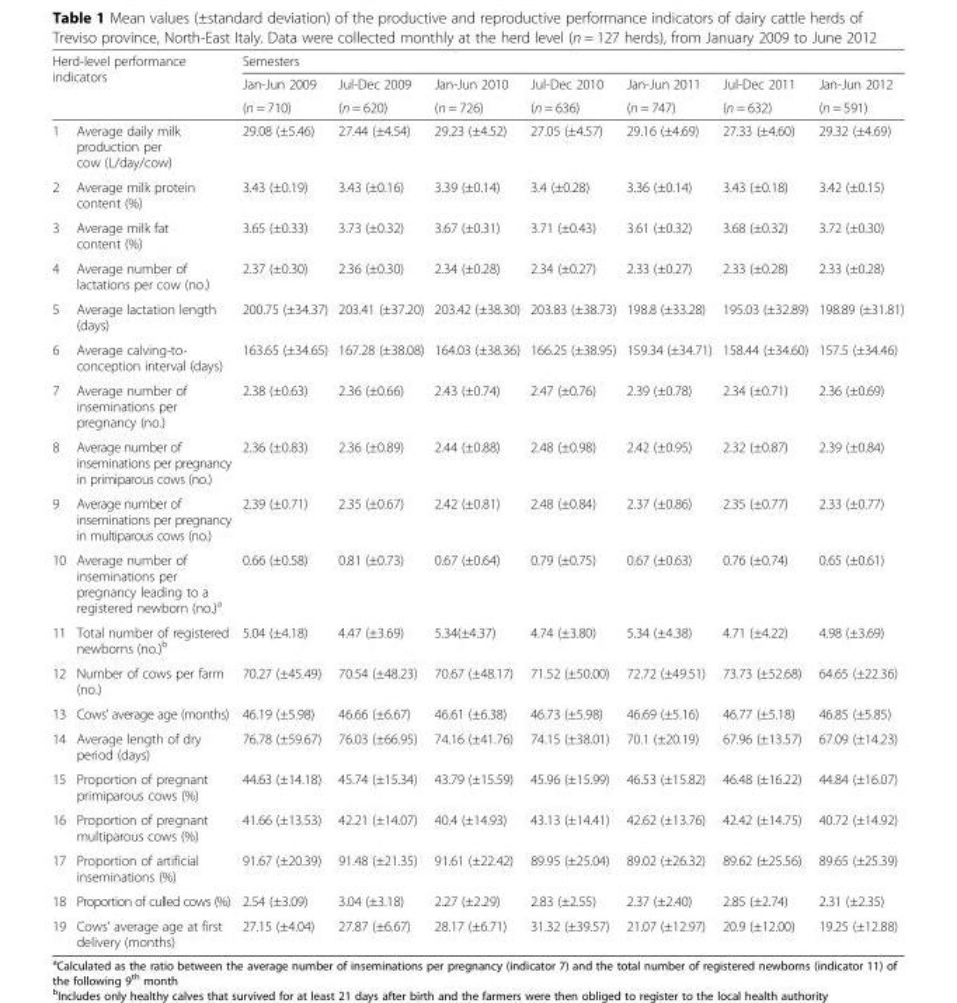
<table><thead><tr><td rowspan="3" colspan="2">Herd-level performance indicators</td><td colspan="7">Semesters</td></tr><tr><td rowspan="3">Jan-Jun 2009 (n = 710) 29.08 (±5.46)</td><td rowspan="3">Jul-Dec 2009 (n = 620) 27.44 (±4.54)</td><td rowspan="3">Jan-Jun 2010 (n = 726) 29.23 (±4.52)</td><td rowspan="3">Jul-Dec 2010 (n = 636) 27.05 (±4.57)</td><td rowspan="3">Jan-Jun 2011 (n = 747) 29.16 (±4.69)</td><td rowspan="3">Jul-Dec 2011 (n = 632) 27.33 (±4.60)</td><td rowspan="3">Jan-Jun 2012 (n = 591) 29.32 (±4.69)</td></tr><tr></tr><tr><td>1</td><td>Average daily milk production per cow (L/day/cow)</td></tr></thead><tbody><tr><td>2</td><td>Average milk protein content (%)</td><td>3.43 (±0.19)</td><td>3.43 (±0.16)</td><td>3.39 (±0.14)</td><td>3.4 (±0.28)</td><td>3.36 (±0.14)</td><td>3.43 (±0.18)</td><td>3.42 (±0.15)</td></tr><tr><td>3</td><td>Average milk fat content (%)</td><td>3.65 (±0.33)</td><td>3.73 (±0.32)</td><td>3.67 (±0.31)</td><td>3.71 (±0.43)</td><td>3.61 (±0.32)</td><td>3.68 (±0.32)</td><td>3.72 (±0.30)</td></tr><tr><td>4</td><td>Average number of lactations per cow (no.)</td><td>2.37 (±0.30)</td><td>2.36 (±0.30)</td><td>2.34 (±0.28)</td><td>2.34 (±0.27)</td><td>2.33 (±0.27)</td><td>2.33 (±0.28)</td><td>2.33 (±0.28)</td></tr><tr><td>5</td><td>Average lactation length (days)</td><td>200.75 (±34.37)</td><td>203.41 (±37.20)</td><td>203.42 (±38.30)</td><td>203.83 (±38.73)</td><td>198.8 (±33.28)</td><td>195.03 (±32.89)</td><td>198.89 (±31.81)</td></tr><tr><td>6</td><td>Average calving-to- conception interval (days)</td><td>163.65 (±34.65)</td><td>167.28 (±38.08)</td><td>164.03 (±38.36)</td><td>166.25 (±38.95)</td><td>159.34 (±34.71)</td><td>158.44 (±34.60)</td><td>157.5 (±34.46)</td></tr><tr><td>7</td><td>Average number of inseminations per pregnancy (no.)</td><td>2.38 (±0.63)</td><td>2.36 (±0.66)</td><td>2.43 (±0.74)</td><td>2.47 (±0.76)</td><td>2.39 (±0.78)</td><td>2.34 (±0.71)</td><td>2.36 (±0.69)</td></tr><tr><td>8</td><td>Average number of inseminations per pregnancy in primiparous cows (no.)</td><td>2.36 (±0.83)</td><td>2.36 (±0.89)</td><td>2.44 (±0.88)</td><td>2.48 (±0.98)</td><td>2.42 (±0.95)</td><td>2.32 (±0.87)</td><td>2.39 (±0.84)</td></tr><tr><td>9</td><td>Average number of inseminations per pregnancy in multiparous cows (no.)</td><td>2.39 (±0.71)</td><td>2.35 (±0.67)</td><td>2.42 (±0.81)</td><td>2.48 (±0.84)</td><td>2.37 (±0.86)</td><td>2.35 (±0.77)</td><td>2.33 (±0.77)</td></tr><tr><td>10</td><td>Average number of inseminations per pregnancy leading to a registered newborn (no.)<sup>a</sup></td><td>0.66 (±0.58)</td><td>0.81 (±0.73)</td><td>0.67 (±0.64)</td><td>0.79 (±0.75)</td><td>0.67 (±0.63)</td><td>0.76 (±0.74)</td><td>0.65 (±0.61)</td></tr><tr><td>11</td><td>Total number of registered newborns (no.)<sup>b</sup></td><td>5.04 (±4.18)</td><td>4.47 (±3.69)</td><td>5.34(±4.37)</td><td>4.74 (±3.80)</td><td>5.34 (±4.38)</td><td>4.71 (±4.22)</td><td>4.98 (±3.69)</td></tr><tr><td>12</td><td>Number of cows per farm (no.)</td><td>70.27 (±45.49)</td><td>70.54 (±48.23)</td><td>70.67 (±48.17)</td><td>71.52 (±50.00)</td><td>72.72 (±49.51)</td><td>73.73 (±52.68)</td><td>64.65 (±22.36)</td></tr><tr><td>13</td><td>Cows’ average age (months)</td><td>46.19 (±5.98)</td><td>46.66 (±6.67)</td><td>46.61 (±6.38)</td><td>46.73 (±5.98)</td><td>46.69 (±5.16)</td><td>46.77 (±5.18)</td><td>46.85 (±5.85)</td></tr><tr><td>14</td><td>Average length of dry period (days)</td><td>76.78 (±59.67)</td><td>76.03 (±66.95)</td><td>74.16 (±41.76)</td><td>74.15 (±38.01)</td><td>70.1 (±20.19)</td><td>67.96 (±13.57)</td><td>67.09 (±14.23)</td></tr><tr><td>15</td><td>Proportion of pregnant primiparous cows (%)</td><td>44.63 (±14.18)</td><td>45.74 (±15.34)</td><td>43.79 (±15.59)</td><td>45.96 (±15.99)</td><td>46.53 (±15.82)</td><td>46.48 (±16.22)</td><td>44.84 (±16.07)</td></tr><tr><td>16</td><td>Proportion of pregnant multiparous cows (%)</td><td>41.66 (±13.53)</td><td>42.21 (±14.07)</td><td>40.4 (±14.93)</td><td>43.13 (±14.41)</td><td>42.62 (±13.76)</td><td>42.42 (±14.75)</td><td>40.72 (±14.92)</td></tr><tr><td>17</td><td>Proportion of artificial inseminations (%)</td><td>91.67 (±20.39)</td><td>91.48 (±21.35)</td><td>91.61 (±22.42)</td><td>89.95 (±25.04)</td><td>89.02 (±26.32)</td><td>89.62 (±25.56)</td><td>89.65 (±25.39)</td></tr><tr><td>18</td><td>Proportion of culled cows (%)</td><td>2.54 (±3.09)</td><td>3.04 (±3.18)</td><td>2.27 (±2.29)</td><td>2.83 (±2.55)</td><td>2.37 (±2.40)</td><td>2.85 (±2.74)</td><td>2.31 (±2.35)</td></tr><tr><td>19</td><td>Cows’ average age at first delivery (months)</td><td>27.15 (±4.04)</td><td>27.87 (±6.67)</td><td>28.17 (±6.71)</td><td>31.32 (±39.57)</td><td>21.07 (±12.97)</td><td>20.9 (±12.00)</td><td>19.25 (±12.88)</td></tr></tbody></table>